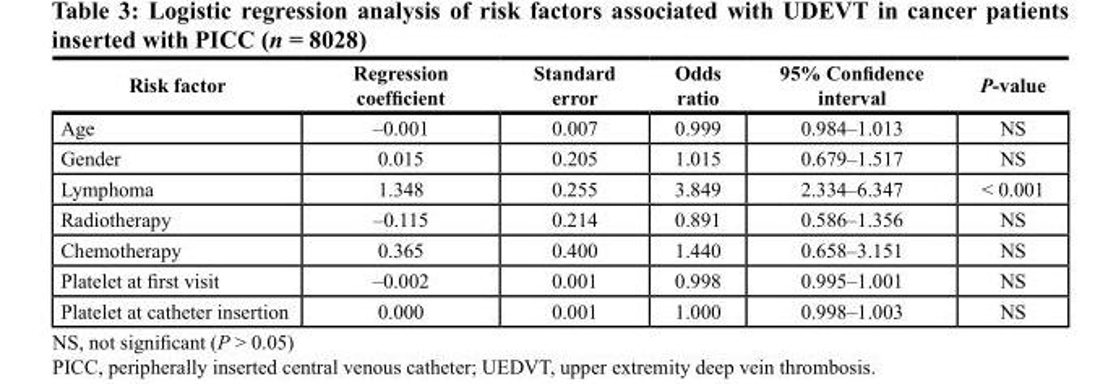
<table><thead><tr><td>Risk factor</td><td>Regression coefficient</td><td>Standard error</td><td>Odds ratio</td><td>95% Confidence interval</td><td>P-value</td></tr></thead><tbody><tr><td>Age</td><td>–0.001</td><td>0.007</td><td>0.999</td><td>0.984–1.013</td><td>NS</td></tr><tr><td>Gender</td><td>0.015</td><td>0.205</td><td>1.015</td><td>0.679–1.517</td><td>NS</td></tr><tr><td>Lymphoma</td><td>1.348</td><td>0.255</td><td>3.849</td><td>2.334–6.347</td><td>&lt; 0.001</td></tr><tr><td>Radiotherapy</td><td>–0.115</td><td>0.214</td><td>0.891</td><td>0.586–1.356</td><td>NS</td></tr><tr><td>Chemotherapy</td><td>0.365</td><td>0.400</td><td>1.440</td><td>0.658–3.151</td><td>NS</td></tr><tr><td>Platelet at first visit</td><td>–0.002</td><td>0.001</td><td>0.998</td><td>0.995–1.001</td><td>NS</td></tr><tr><td>Platelet at catheter insertion</td><td>0.000</td><td>0.001</td><td>1.000</td><td>0.998–1.003</td><td>NS</td></tr></tbody></table>